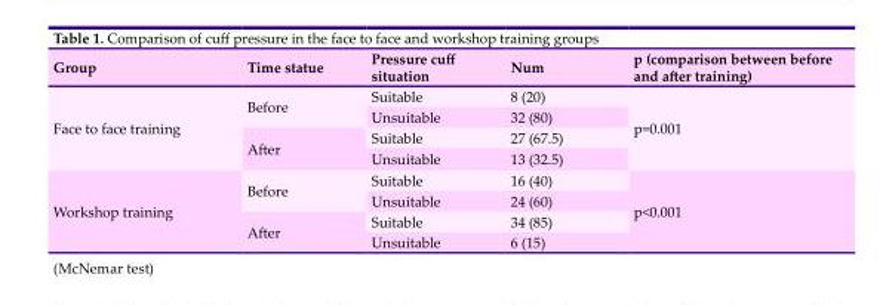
<table><thead><tr><td>Group</td><td>Time statue</td><td>Pressure cuff situation</td><td>Num</td><td>p (comparison between before and after training)</td></tr></thead><tbody><tr><td rowspan="4">Face to face training</td><td rowspan="2">Before</td><td>Suitable</td><td>8 (20)</td><td rowspan="4">p=0.001</td></tr><tr><td>Unsuitable</td><td>32 (80)</td></tr><tr><td rowspan="2">After</td><td>Suitable</td><td>27 (67.5)</td></tr><tr><td>Unsuitable</td><td>13 (32.5)</td></tr><tr><td rowspan="4">Workshop training</td><td rowspan="2">Before</td><td>Suitable</td><td>16 (40)</td><td rowspan="4">p&lt;0.001</td></tr><tr><td>Unsuitable</td><td>24 (60)</td></tr><tr><td rowspan="2">After</td><td>Suitable</td><td>34 (85)</td></tr><tr><td>Unsuitable</td><td>6 (15)</td></tr></tbody></table>